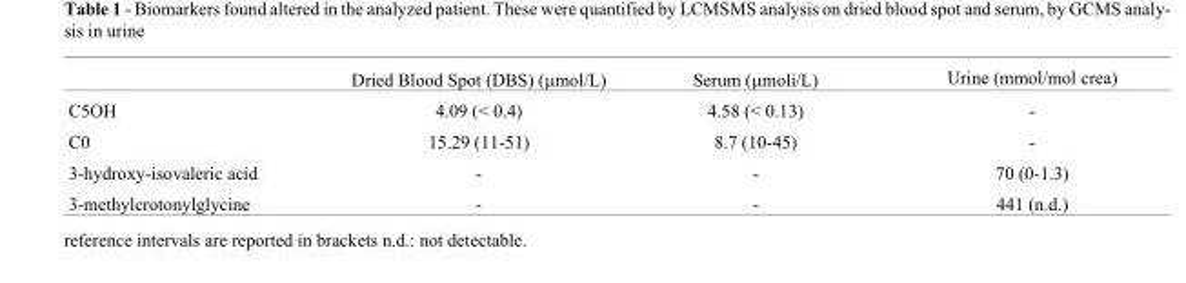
<table><thead><tr><td></td><td>Dried Blood Spot (DBS) (μmol/L)</td><td>Serum (μmoli/L)</td><td>Urine (mmol/mol crea)</td></tr></thead><tbody><tr><td>C5OH</td><td>4.09 (&lt; 0.4)</td><td>4.58 (&lt; 0.13)</td><td>-</td></tr><tr><td>C0</td><td>15.29 (11-51)</td><td>8.7 (10-45)</td><td>-</td></tr><tr><td>3-hydroxy-isovaleric acid</td><td>-</td><td>-</td><td>70 (0-1.3)</td></tr><tr><td>3-methylcrotonylglycine</td><td>-</td><td>-</td><td>441 (n.d.)</td></tr></tbody></table>